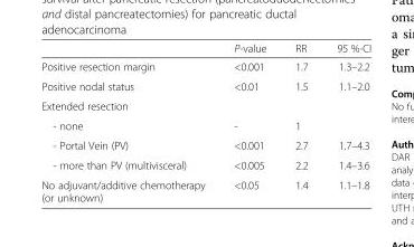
<table><thead><tr><td></td><td>P-value</td><td>RR</td><td>95 %-CI</td></tr></thead><tbody><tr><td>Positive resection margin</td><td>&lt;0.001</td><td>1.7</td><td>1.3–2.2</td></tr><tr><td>Positive nodal status</td><td>&lt;0.01</td><td>1.5</td><td>1.1–2.0</td></tr><tr><td colspan="4">Extended resection</td></tr><tr><td>- none</td><td>-</td><td>1</td><td></td></tr><tr><td>- Portal Vein (PV)</td><td>&lt;0.001</td><td>2.7</td><td>1.7–4.3</td></tr><tr><td>- more than PV (multivisceral)</td><td>&lt;0.005</td><td>2.2</td><td>1.4–3.6</td></tr><tr><td>No adjuvant/additive chemotherapy (or unknown)</td><td>&lt;0.05</td><td>1.4</td><td>1.1–1.8</td></tr></tbody></table>